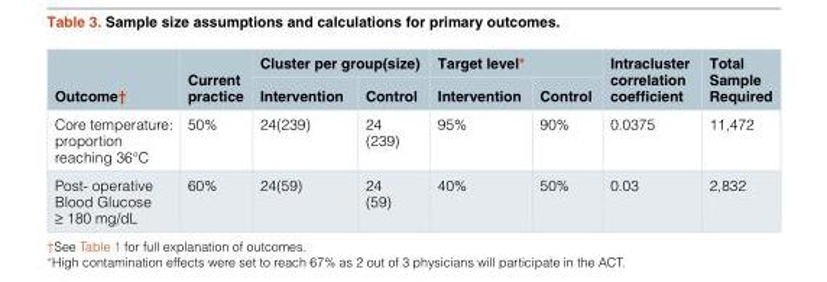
<table><thead><tr><td rowspan="2">Outcome†</td><td rowspan="2">Current practice</td><td colspan="2">Cluster per group(size)</td><td colspan="2">Target level*</td><td rowspan="2">Intracluster correlation coefficient</td><td rowspan="2">Total Sample Required</td></tr><tr><td>Intervention</td><td>Control</td><td>Intervention</td><td>Control</td></tr></thead><tbody><tr><td>Core temperature: proportion reaching 36°C</td><td>50%</td><td>24(239)</td><td>24 (239)</td><td>95%</td><td>90%</td><td>0.0375</td><td>11,472</td></tr><tr><td>Post- operative Blood Glucose ≥ 180 mg/dL</td><td>60%</td><td>24(59)</td><td>24 (59)</td><td>40%</td><td>50%</td><td>0.03</td><td>2,832</td></tr></tbody></table>